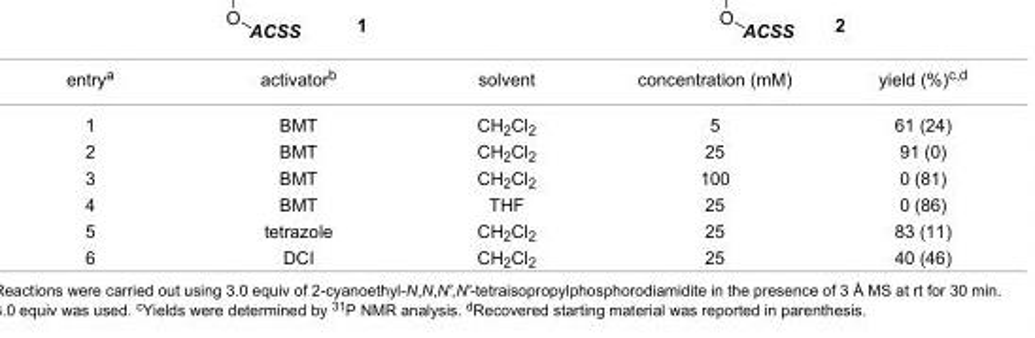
<table><tbody><tr><td>entry<sup>a</sup></td><td>activator<sup>b</sup></td><td>solvent</td><td>concentration (mM)</td><td>yield (%)<sup>c,d</sup></td></tr><tr><td>1</td><td>BMT</td><td>CH<sub>2</sub>Cl<sub>2</sub></td><td>5</td><td>61 (24)</td></tr><tr><td>2</td><td>BMT</td><td>CH<sub>2</sub>Cl<sub>2</sub></td><td>25</td><td>91 (0)</td></tr><tr><td>3</td><td>BMT</td><td>CH<sub>2</sub>Cl<sub>2</sub></td><td>100</td><td>0 (81)</td></tr><tr><td>4</td><td>BMT</td><td>THF</td><td>25</td><td>0 (86)</td></tr><tr><td>5</td><td>tetrazole</td><td>CH<sub>2</sub>Cl<sub>2</sub></td><td>25</td><td>83 (11)</td></tr><tr><td>6</td><td>DCI</td><td>CH<sub>2</sub>Cl<sub>2</sub></td><td>25</td><td>40 (46)</td></tr></tbody></table>